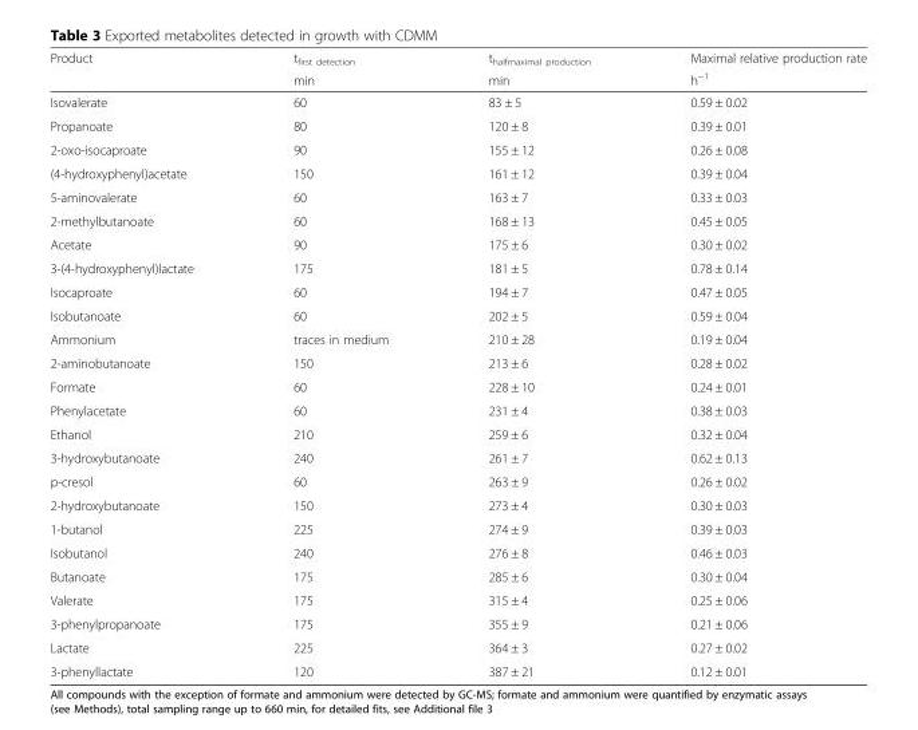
<table><thead><tr><td rowspan="2">Product</td><td rowspan="2">t<sub>first detection</sub> min</td><td rowspan="2">t<sub>halfmaximal production</sub> min</td><td rowspan="2">Maximal relative production rate h<sup>−1</sup></td></tr><tr></tr></thead><tbody><tr><td>Isovalerate</td><td>60</td><td>83 ± 5</td><td>0.59 ± 0.02</td></tr><tr><td>Propanoate</td><td>80</td><td>120 ± 8</td><td>0.39 ± 0.01</td></tr><tr><td>2-oxo-isocaproate</td><td>90</td><td>155 ± 12</td><td>0.26 ± 0.08</td></tr><tr><td>(4-hydroxyphenyl)acetate</td><td>150</td><td>161 ± 12</td><td>0.39 ± 0.04</td></tr><tr><td>5-aminovalerate</td><td>60</td><td>163 ± 7</td><td>0.33 ± 0.03</td></tr><tr><td>2-methylbutanoate</td><td>60</td><td>168 ± 13</td><td>0.45 ± 0.05</td></tr><tr><td>Acetate</td><td>90</td><td>175 ± 6</td><td>0.30 ± 0.02</td></tr><tr><td>3-(4-hydroxyphenyl)lactate</td><td>175</td><td>181 ± 5</td><td>0.78 ± 0.14</td></tr><tr><td>Isocaproate</td><td>60</td><td>194 ± 7</td><td>0.47 ± 0.05</td></tr><tr><td>Isobutanoate</td><td>60</td><td>202 ± 5</td><td>0.59 ± 0.04</td></tr><tr><td>Ammonium</td><td>traces in medium</td><td>210 ± 28</td><td>0.19 ± 0.04</td></tr><tr><td>2-aminobutanoate</td><td>150</td><td>213 ± 6</td><td>0.28 ± 0.02</td></tr><tr><td>Formate</td><td>60</td><td>228 ± 10</td><td>0.24 ± 0.01</td></tr><tr><td>Phenylacetate</td><td>60</td><td>231 ± 4</td><td>0.38 ± 0.03</td></tr><tr><td>Ethanol</td><td>210</td><td>259 ± 6</td><td>0.32 ± 0.04</td></tr><tr><td>3-hydroxybutanoate</td><td>240</td><td>261 ± 7</td><td>0.62 ± 0.13</td></tr><tr><td>p-cresol</td><td>60</td><td>263 ± 9</td><td>0.26 ± 0.02</td></tr><tr><td>2-hydroxybutanoate</td><td>150</td><td>273 ± 4</td><td>0.30 ± 0.03</td></tr><tr><td>1-butanol</td><td>225</td><td>274 ± 9</td><td>0.39 ± 0.03</td></tr><tr><td>Isobutanol</td><td>240</td><td>276 ± 8</td><td>0.46 ± 0.03</td></tr><tr><td>Butanoate</td><td>175</td><td>285 ± 6</td><td>0.30 ± 0.04</td></tr><tr><td>Valerate</td><td>175</td><td>315 ± 4</td><td>0.25 ± 0.06</td></tr><tr><td>3-phenylpropanoate</td><td>175</td><td>355 ± 9</td><td>0.21 ± 0.06</td></tr><tr><td>Lactate</td><td>225</td><td>364 ± 3</td><td>0.27 ± 0.02</td></tr><tr><td>3-phenyllactate</td><td>120</td><td>387 ± 21</td><td>0.12 ± 0.01</td></tr></tbody></table>